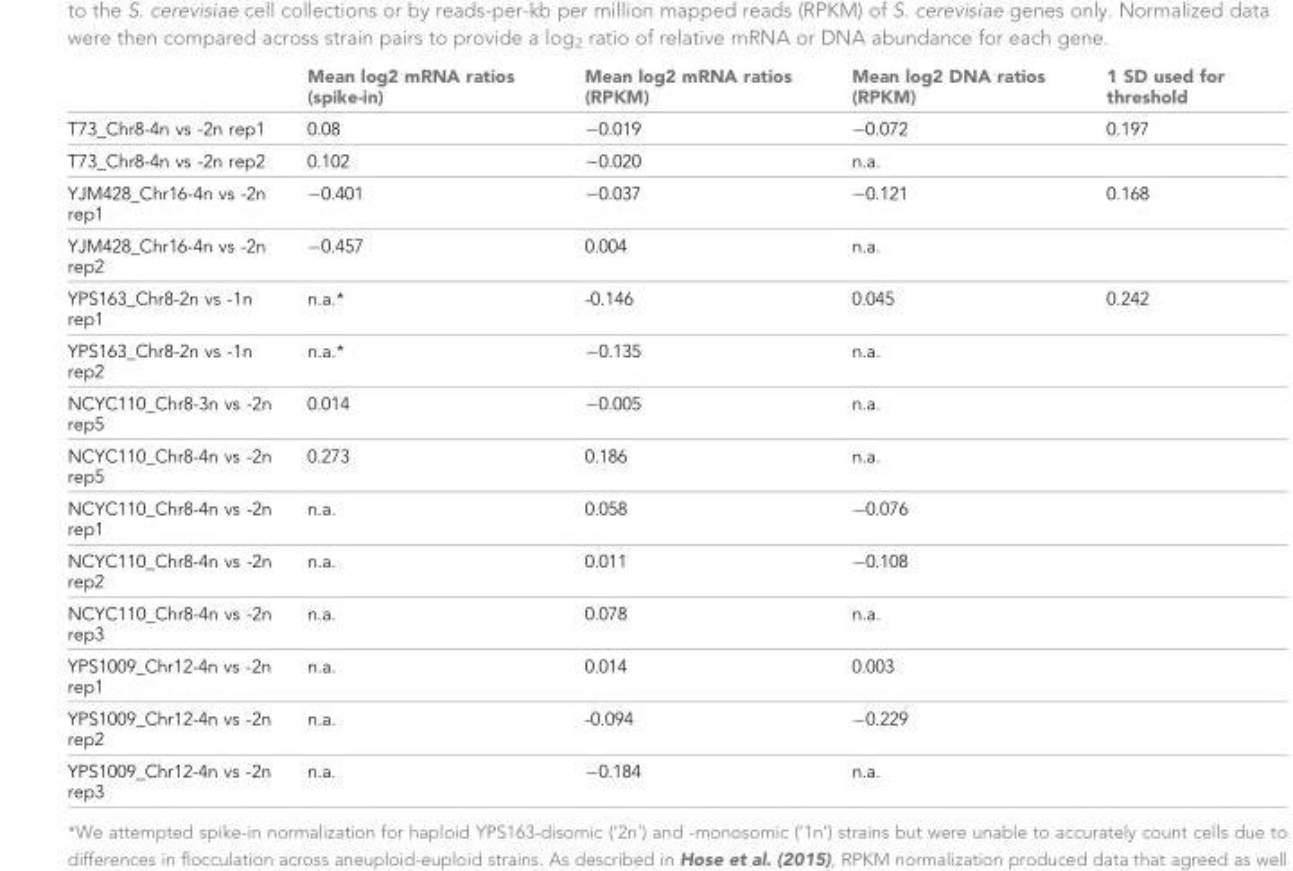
<table><thead><tr><td></td><td>Mean log2 mRNA ratios (spike-in)</td><td>Mean log2 mRNA ratios (RPKM)</td><td>Mean log2 DNA ratios (RPKM)</td><td>1 SD used for threshold</td></tr></thead><tbody><tr><td>T73_Chr8-4n vs -2n rep1</td><td>0.08</td><td>−0.019</td><td>−0.072</td><td>0.197</td></tr><tr><td>T73_Chr8-4n vs -2n rep2</td><td>0.102</td><td>−0.020</td><td>n.a.</td><td></td></tr><tr><td>YJM428_Chr16-4n vs -2n rep1</td><td>−0.401</td><td>−0.037</td><td>−0.121</td><td>0.168</td></tr><tr><td>YJM428_Chr16-4n vs -2n rep2</td><td>−0.457</td><td>0.004</td><td>n.a.</td><td></td></tr><tr><td>YPS163_Chr8-2n vs -1n rep1</td><td>n.a.*</td><td>-0.146</td><td>0.045</td><td>0.242</td></tr><tr><td>YPS163_Chr8-2n vs -1n rep2</td><td>n.a.*</td><td>−0.135</td><td>n.a.</td><td></td></tr><tr><td>NCYC110_Chr8-3n vs -2n rep5</td><td>0.014</td><td>−0.005</td><td>n.a.</td><td></td></tr><tr><td>NCYC110_Chr8-4n vs -2n rep5</td><td>0.273</td><td>0.186</td><td>n.a.</td><td></td></tr><tr><td>NCYC110_Chr8-4n vs -2n rep1</td><td>n.a.</td><td>0.058</td><td>−0.076</td><td></td></tr><tr><td>NCYC110_Chr8-4n vs -2n rep2</td><td>n.a.</td><td>0.011</td><td>−0.108</td><td></td></tr><tr><td>NCYC110_Chr8-4n vs -2n rep3</td><td>n.a.</td><td>0.078</td><td>n.a.</td><td></td></tr><tr><td>YPS1009_Chr12-4n vs -2n rep1</td><td>n.a.</td><td>0.014</td><td>0.003</td><td></td></tr><tr><td>YPS1009_Chr12-4n vs -2n rep2</td><td>n.a.</td><td>-0.094</td><td>−0.229</td><td></td></tr><tr><td>YPS1009_Chr12-4n vs -2n rep3</td><td>n.a.</td><td>−0.184</td><td>n.a.</td><td></td></tr></tbody></table>